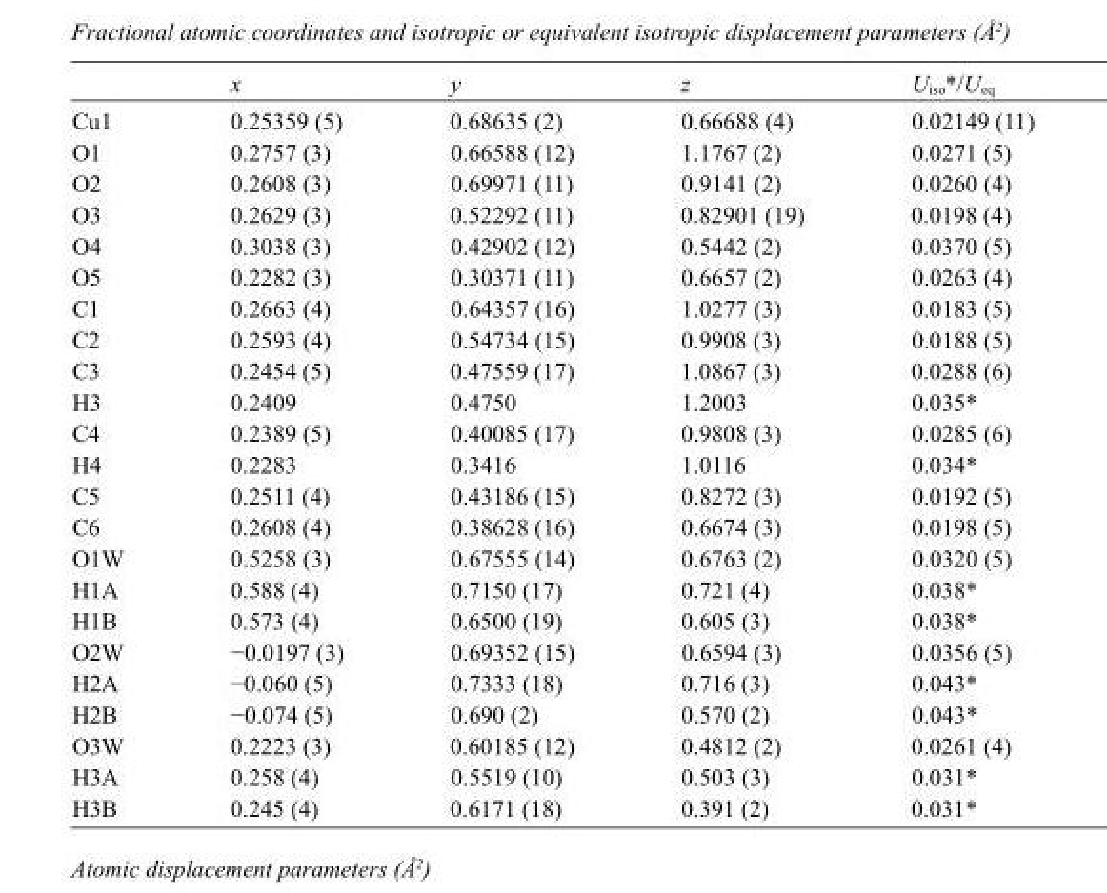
<table><thead><tr><td></td><td>x</td><td>y</td><td>z</td><td>U<sub>iso</sub>*/U<sub>eq</sub></td></tr></thead><tbody><tr><td>Cu1</td><td>0.25359 (5)</td><td>0.68635 (2)</td><td>0.66688 (4)</td><td>0.02149 (11)</td></tr><tr><td>O1</td><td>0.2757 (3)</td><td>0.66588 (12)</td><td>1.1767 (2)</td><td>0.0271 (5)</td></tr><tr><td>O2</td><td>0.2608 (3)</td><td>0.69971 (11)</td><td>0.9141 (2)</td><td>0.0260 (4)</td></tr><tr><td>O3</td><td>0.2629 (3)</td><td>0.52292 (11)</td><td>0.82901 (19)</td><td>0.0198 (4)</td></tr><tr><td>O4</td><td>0.3038 (3)</td><td>0.42902 (12)</td><td>0.5442 (2)</td><td>0.0370 (5)</td></tr><tr><td>O5</td><td>0.2282 (3)</td><td>0.30371 (11)</td><td>0.6657 (2)</td><td>0.0263 (4)</td></tr><tr><td>C1</td><td>0.2663 (4)</td><td>0.64357 (16)</td><td>1.0277 (3)</td><td>0.0183 (5)</td></tr><tr><td>C2</td><td>0.2593 (4)</td><td>0.54734 (15)</td><td>0.9908 (3)</td><td>0.0188 (5)</td></tr><tr><td>C3</td><td>0.2454 (5)</td><td>0.47559 (17)</td><td>1.0867 (3)</td><td>0.0288 (6)</td></tr><tr><td>H3</td><td>0.2409</td><td>0.4750</td><td>1.2003</td><td>0.035*</td></tr><tr><td>C4</td><td>0.2389 (5)</td><td>0.40085 (17)</td><td>0.9808 (3)</td><td>0.0285 (6)</td></tr><tr><td>H4</td><td>0.2283</td><td>0.3416</td><td>1.0116</td><td>0.034*</td></tr><tr><td>C5</td><td>0.2511 (4)</td><td>0.43186 (15)</td><td>0.8272 (3)</td><td>0.0192 (5)</td></tr><tr><td>C6</td><td>0.2608 (4)</td><td>0.38628 (16)</td><td>0.6674 (3)</td><td>0.0198 (5)</td></tr><tr><td>O1W</td><td>0.5258 (3)</td><td>0.67555 (14)</td><td>0.6763 (2)</td><td>0.0320 (5)</td></tr><tr><td>H1A</td><td>0.588 (4)</td><td>0.7150 (17)</td><td>0.721 (4)</td><td>0.038*</td></tr><tr><td>H1B</td><td>0.573 (4)</td><td>0.6500 (19)</td><td>0.605 (3)</td><td>0.038*</td></tr><tr><td>O2W</td><td>−0.0197 (3)</td><td>0.69352 (15)</td><td>0.6594 (3)</td><td>0.0356 (5)</td></tr><tr><td>H2A</td><td>−0.060 (5)</td><td>0.7333 (18)</td><td>0.716 (3)</td><td>0.043*</td></tr><tr><td>H2B</td><td>−0.074 (5)</td><td>0.690 (2)</td><td>0.570 (2)</td><td>0.043*</td></tr><tr><td>O3W</td><td>0.2223 (3)</td><td>0.60185 (12)</td><td>0.4812 (2)</td><td>0.0261 (4)</td></tr><tr><td>H3A</td><td>0.258 (4)</td><td>0.5519 (10)</td><td>0.503 (3)</td><td>0.031*</td></tr><tr><td>H3B</td><td>0.245 (4)</td><td>0.6171 (18)</td><td>0.391 (2)</td><td>0.031*</td></tr></tbody></table>